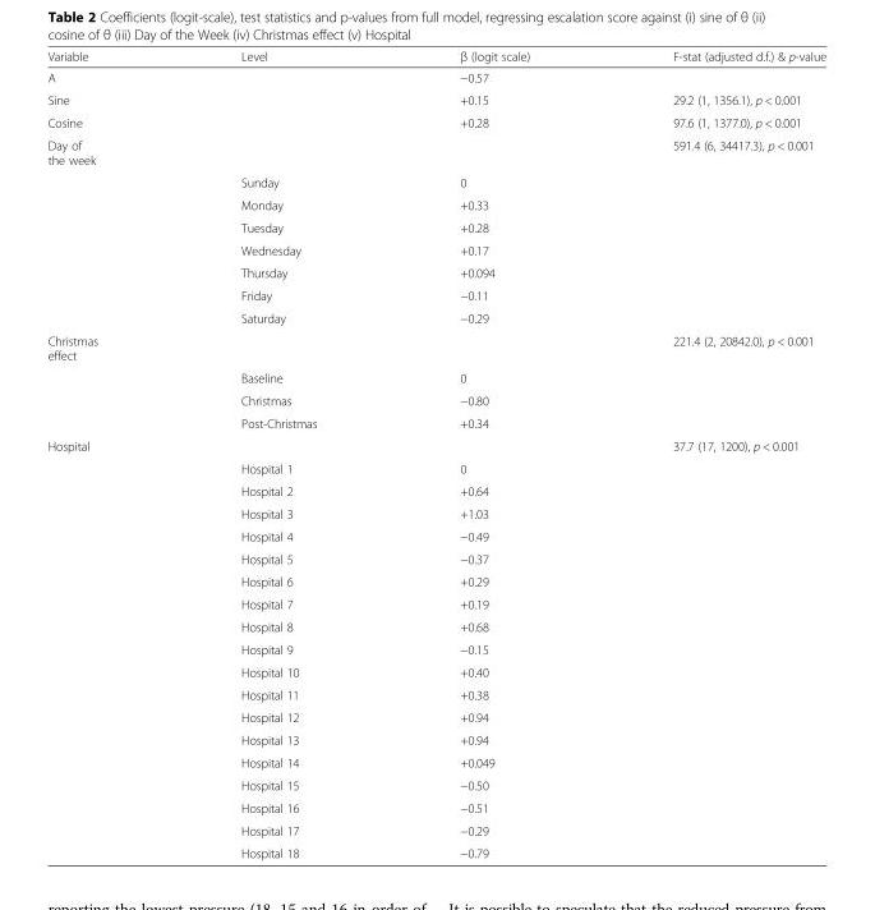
<table><thead><tr><td>Variable</td><td>Level</td><td>β (logit scale)</td><td>F-stat (adjusted d.f.) &amp; p-value</td></tr></thead><tbody><tr><td>A</td><td></td><td>−0.57</td><td></td></tr><tr><td>Sine</td><td></td><td>+0.15</td><td>29.2 (1, 1356.1), p &lt; 0.001</td></tr><tr><td>Cosine</td><td></td><td>+0.28</td><td>97.6 (1, 1377.0), p &lt; 0.001</td></tr><tr><td rowspan="8">Day of the week</td><td></td><td></td><td>591.4 (6, 34417.3), p &lt; 0.001</td></tr><tr><td>Sunday</td><td>0</td><td></td></tr><tr><td>Monday</td><td>+0.33</td><td></td></tr><tr><td>Tuesday</td><td>+0.28</td><td></td></tr><tr><td>Wednesday</td><td>+0.17</td><td></td></tr><tr><td>Thursday</td><td>+0.094</td><td></td></tr><tr><td>Friday</td><td>−0.11</td><td></td></tr><tr><td>Saturday</td><td>−0.29</td><td></td></tr><tr><td rowspan="4">Christmas effect</td><td></td><td></td><td>221.4 (2, 20842.0), p &lt; 0.001</td></tr><tr><td>Baseline</td><td>0</td><td></td></tr><tr><td>Christmas</td><td>−0.80</td><td></td></tr><tr><td>Post-Christmas</td><td>+0.34</td><td></td></tr><tr><td rowspan="19">Hospital</td><td></td><td></td><td>37.7 (17, 1200), p &lt; 0.001</td></tr><tr><td>Hospital 1</td><td>0</td><td></td></tr><tr><td>Hospital 2</td><td>+0.64</td><td></td></tr><tr><td>Hospital 3</td><td>+1.03</td><td></td></tr><tr><td>Hospital 4</td><td>−0.49</td><td></td></tr><tr><td>Hospital 5</td><td>−0.37</td><td></td></tr><tr><td>Hospital 6</td><td>+0.29</td><td></td></tr><tr><td>Hospital 7</td><td>+0.19</td><td></td></tr><tr><td>Hospital 8</td><td>+0.68</td><td></td></tr><tr><td>Hospital 9</td><td>−0.15</td><td></td></tr><tr><td>Hospital 10</td><td>+0.40</td><td></td></tr><tr><td>Hospital 11</td><td>+0.38</td><td></td></tr><tr><td>Hospital 12</td><td>+0.94</td><td></td></tr><tr><td>Hospital 13</td><td>+0.94</td><td></td></tr><tr><td>Hospital 14</td><td>+0.049</td><td></td></tr><tr><td>Hospital 15</td><td>−0.50</td><td></td></tr><tr><td>Hospital 16</td><td>−0.51</td><td></td></tr><tr><td>Hospital 17</td><td>−0.29</td><td></td></tr><tr><td>Hospital 18</td><td>−0.79</td><td></td></tr></tbody></table>